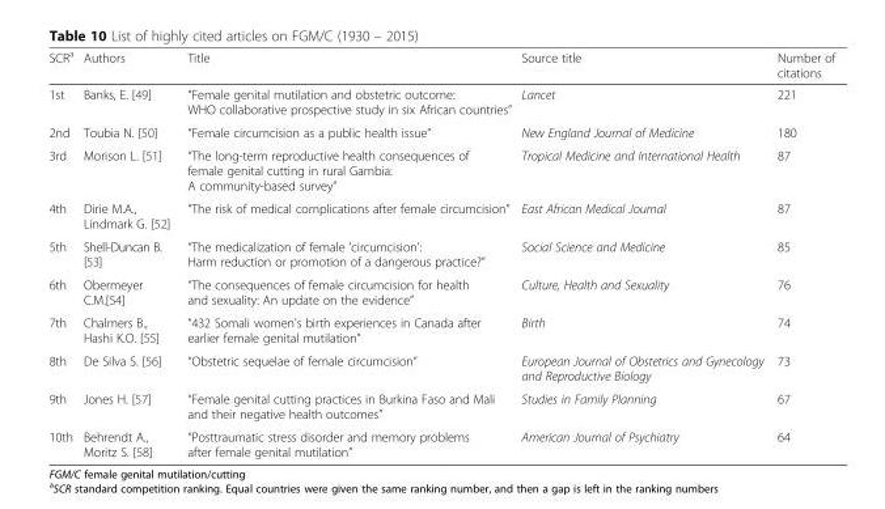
<table><thead><tr><td>SCR<sup>a</sup></td><td>Authors</td><td>Title</td><td>Source title</td><td>Number of citations</td></tr></thead><tbody><tr><td>1st</td><td>Banks, E. [49]</td><td>“Female genital mutilation and obstetric outcome: WHO collaborative prospective study in six African countries”</td><td>Lancet</td><td>221</td></tr><tr><td>2nd</td><td>Toubia N. [50]</td><td>“Female circumcision as a public health issue”</td><td>New England Journal of Medicine</td><td>180</td></tr><tr><td>3rd</td><td>Morison L. [51]</td><td>“The long-term reproductive health consequences of female genital cutting in rural Gambia: A community-based survey”</td><td>Tropical Medicine and International Health</td><td>87</td></tr><tr><td>4th</td><td>Dirie M.A., Lindmark G. [52]</td><td>“The risk of medical complications after female circumcision”</td><td>East African Medical Journal</td><td>87</td></tr><tr><td>5th</td><td>Shell-Duncan B. [53]</td><td>“The medicalization of female &#x27;circumcision&#x27;: Harm reduction or promotion of a dangerous practice?”</td><td>Social Science and Medicine</td><td>85</td></tr><tr><td>6th</td><td>Obermeyer C.M.[54]</td><td>“The consequences of female circumcision for health and sexuality: An update on the evidence”</td><td>Culture, Health and Sexuality</td><td>76</td></tr><tr><td>7th</td><td>Chalmers B., Hashi K.O. [55]</td><td>“432 Somali women&#x27;s birth experiences in Canada after earlier female genital mutilation”</td><td>Birth</td><td>74</td></tr><tr><td>8th</td><td>De Silva S. [56]</td><td>“Obstetric sequelae of female circumcision”</td><td>European Journal of Obstetrics and Gynecology and Reproductive Biology</td><td>73</td></tr><tr><td>9th</td><td>Jones H. [57]</td><td>“Female genital cutting practices in Burkina Faso and Mali and their negative health outcomes”</td><td>Studies in Family Planning</td><td>67</td></tr><tr><td>10th</td><td>Behrendt A., Moritz S. [58]</td><td>“Posttraumatic stress disorder and memory problems after female genital mutilation”</td><td>American Journal of Psychiatry</td><td>64</td></tr></tbody></table>